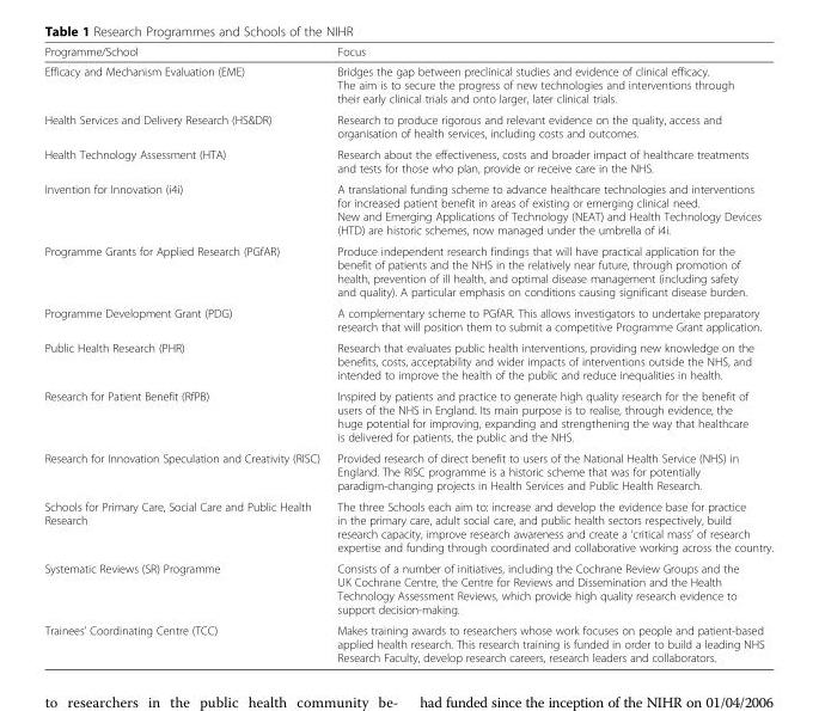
<table><thead><tr><td>Programme/School</td><td>Focus</td></tr></thead><tbody><tr><td>Efficacy and Mechanism Evaluation (EME)</td><td>Bridges the gap between preclinical studies and evidence of clinical efficacy. The aim is to secure the progress of new technologies and interventions through their early clinical trials and onto larger, later clinical trials.</td></tr><tr><td>Health Services and Delivery Research (HS&amp;DR)</td><td>Research to produce rigorous and relevant evidence on the quality, access and organisation of health services, including costs and outcomes.</td></tr><tr><td>Health Technology Assessment (HTA)</td><td>Research about the effectiveness, costs and broader impact of healthcare treatments and tests for those who plan, provide or receive care in the NHS.</td></tr><tr><td>Invention for Innovation (i4i)</td><td>A translational funding scheme to advance healthcare technologies and interventions for increased patient benefit in areas of existing or emerging clinical need. New and Emerging Applications of Technology (NEAT) and Health Technology Devices (HTD) are historic schemes, now managed under the umbrella of i4i.</td></tr><tr><td>Programme Grants for Applied Research (PGfAR)</td><td>Produce independent research findings that will have practical application for the benefit of patients and the NHS in the relatively near future, through promotion of health, prevention of ill health, and optimal disease management (including safety and quality). A particular emphasis on conditions causing significant disease burden.</td></tr><tr><td>Programme Development Grant (PDG)</td><td>A complementary scheme to PGfAR. This allows investigators to undertake preparatory research that will position them to submit a competitive Programme Grant application.</td></tr><tr><td>Public Health Research (PHR)</td><td>Research that evaluates public health interventions, providing new knowledge on the benefits, costs, acceptability and wider impacts of interventions outside the NHS, and intended to improve the health of the public and reduce inequalities in health.</td></tr><tr><td>Research for Patient Benefit (RfPB)</td><td>Inspired by patients and practice to generate high quality research for the benefit of users of the NHS in England. Its main purpose is to realise, through evidence, the huge potential for improving, expanding and strengthening the way that healthcare is delivered for patients, the public and the NHS.</td></tr><tr><td>Research for Innovation Speculation and Creativity (RISC)</td><td>Provided research of direct benefit to users of the National Health Service (NHS) in England. The RISC programme is a historic scheme that was for potentially paradigm-changing projects in Health Services and Public Health Research.</td></tr><tr><td>Schools for Primary Care, Social Care and Public Health Research</td><td>The three Schools each aim to: increase and develop the evidence base for practice in the primary care, adult social care, and public health sectors respectively, build research capacity, improve research awareness and create a ‘critical mass’ of research expertise and funding through coordinated and collaborative working across the country.</td></tr><tr><td>Systematic Reviews (SR) Programme</td><td>Consists of a number of initiatives, including the Cochrane Review Groups and the UK Cochrane Centre, the Centre for Reviews and Dissemination and the Health Technology Assessment Reviews, which provide high quality research evidence to support decision-making.</td></tr><tr><td>Trainees’ Coordinating Centre (TCC)</td><td>Makes training awards to researchers whose work focuses on people and patient-based applied health research. This research training is funded in order to build a leading NHS Research Faculty, develop research careers, research leaders and collaborators.</td></tr></tbody></table>